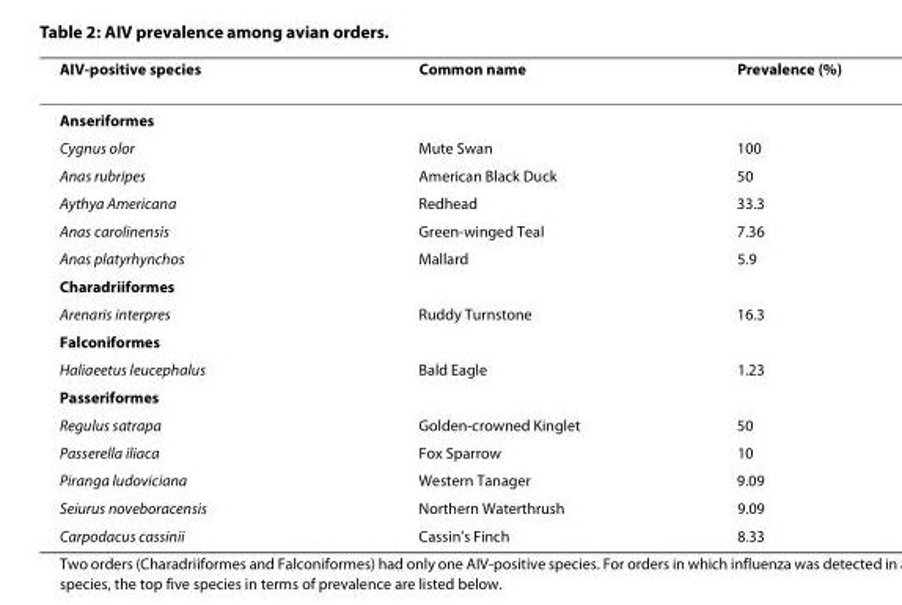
<table><thead><tr><td>AIV-positive species</td><td>Common name</td><td>Prevalence (%)</td></tr></thead><tbody><tr><td colspan="3">Anseriformes</td></tr><tr><td>Cygnus olor</td><td>Mute Swan</td><td>100</td></tr><tr><td>Anas rubripes</td><td>American Black Duck</td><td>50</td></tr><tr><td>Aythya Americana</td><td>Redhead</td><td>33.3</td></tr><tr><td>Anas carolinensis</td><td>Green-winged Teal</td><td>7.36</td></tr><tr><td>Anas platyrhynchos</td><td>Mallard</td><td>5.9</td></tr><tr><td colspan="3">Charadriiformes</td></tr><tr><td>Arenaris interpres</td><td>Ruddy Turnstone</td><td>16.3</td></tr><tr><td colspan="3">Falconiformes</td></tr><tr><td>Haliaeetus leucephalus</td><td>Bald Eagle</td><td>1.23</td></tr><tr><td colspan="3">Passeriformes</td></tr><tr><td>Regulus satrapa</td><td>Golden-crowned Kinglet</td><td>50</td></tr><tr><td>Passerella iliaca</td><td>Fox Sparrow</td><td>10</td></tr><tr><td>Piranga ludoviciana</td><td>Western Tanager</td><td>9.09</td></tr><tr><td>Seiurus noveboracensis</td><td>Northern Waterthrush</td><td>9.09</td></tr><tr><td>Carpodacus cassinii</td><td>Cassin&#x27;s Finch</td><td>8.33</td></tr></tbody></table>